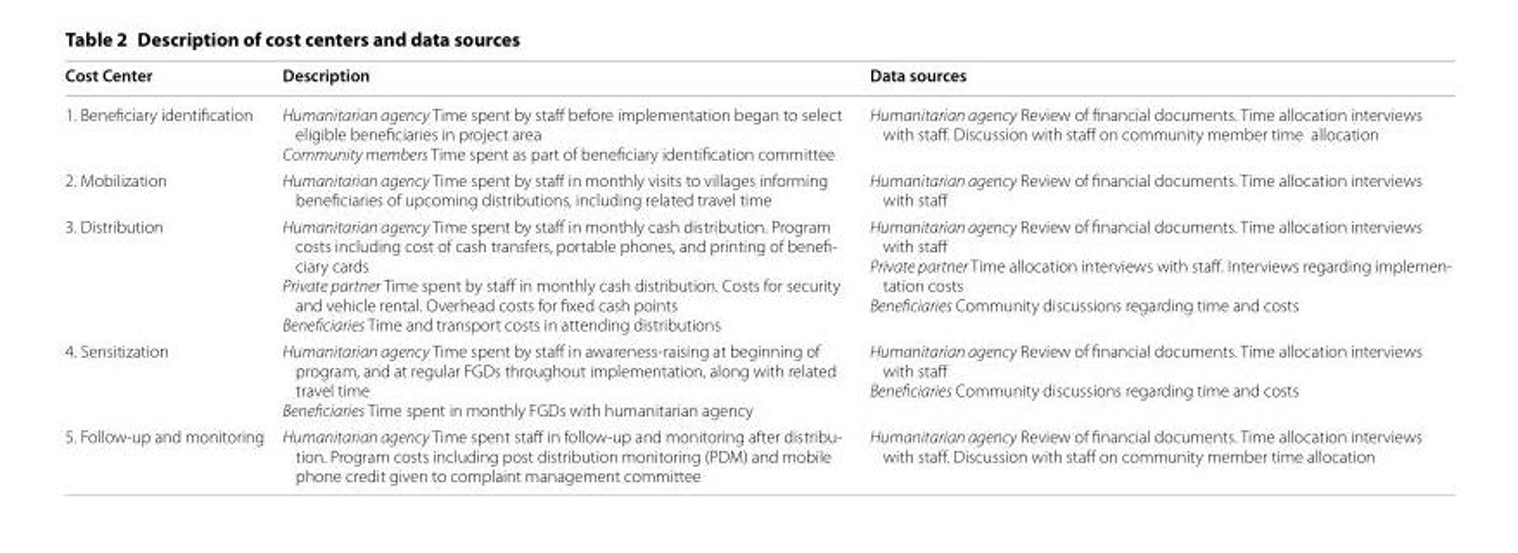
<table><thead><tr><td>Cost Center</td><td>Description</td><td>Data sources</td></tr></thead><tbody><tr><td>1. Beneficiary identification</td><td>Humanitarian agency Time spent by staff before implementation began to select eligible beneficiaries in project area Community members Time spent as part of beneficiary identification committee</td><td>Humanitarian agency Review of financial documents. Time allocation interviews with staff. Discussion with staff on community member time allocation</td></tr><tr><td>2. Mobilization</td><td>Humanitarian agency Time spent by staff in monthly visits to villages informing beneficiaries of upcoming distributions, including related travel time</td><td>Humanitarian agency Review of financial documents. Time allocation interviews with staff</td></tr><tr><td>3. Distribution</td><td>Humanitarian agency Time spent by staff in monthly cash distribution. Program costs including cost of cash transfers, portable phones, and printing of benefi‑ ciary cards Private partner Time spent by staff in monthly cash distribution. Costs for security and vehicle rental. Overhead costs for fixed cash points Beneficiaries Time and transport costs in attending distributions</td><td>Humanitarian agency Review of financial documents. Time allocation interviews with staff Private partner Time allocation interviews with staff. Interviews regarding implemen‑ tation costs Beneficiaries Community discussions regarding time and costs</td></tr><tr><td>4. Sensitization</td><td>Humanitarian agency Time spent by staff in awareness‑raising at beginning of program, and at regular FGDs throughout implementation, along with related travel time Beneficiaries Time spent in monthly FGDs with humanitarian agency</td><td>Humanitarian agency Review of financial documents. Time allocation interviews with staff Beneficiaries Community discussions regarding time and costs</td></tr><tr><td>5. Follow‑up and monitoring</td><td>Humanitarian agency Time spent staff in follow‑up and monitoring after distribu‑ tion. Program costs including post distribution monitoring (PDM) and mobile phone credit given to complaint management committee</td><td>Humanitarian agency Review of financial documents. Time allocation interviews with staff. Discussion with staff on community member time allocation</td></tr></tbody></table>